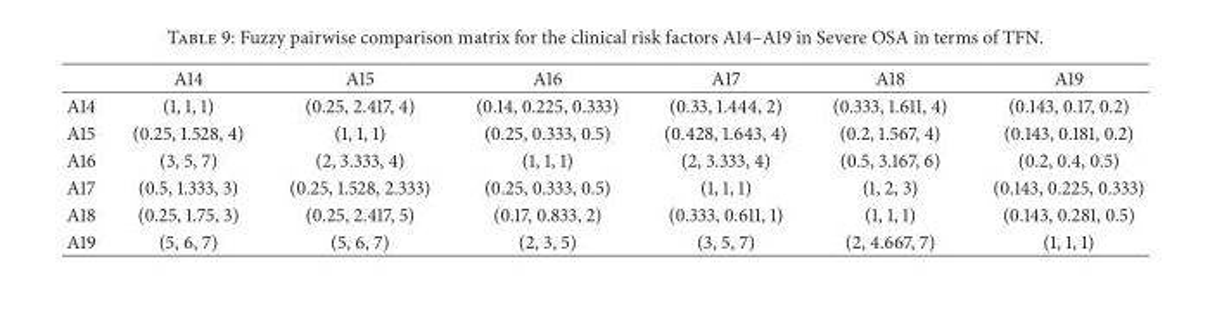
<table><thead><tr><td></td><td>A14</td><td>A15</td><td>A16</td><td>A17</td><td>A18</td><td>A19</td></tr></thead><tbody><tr><td>A14</td><td>(1, 1, 1)</td><td>(0.25, 2.417, 4)</td><td>(0.14, 0.225, 0.333)</td><td>(0.33, 1.444, 2)</td><td>(0.333, 1.611, 4)</td><td>(0.143, 0.17, 0.2)</td></tr><tr><td>A15</td><td>(0.25, 1.528, 4)</td><td>(1, 1, 1)</td><td>(0.25, 0.333, 0.5)</td><td>(0.428, 1.643, 4)</td><td>(0.2, 1.567, 4)</td><td>(0.143, 0.181, 0.2)</td></tr><tr><td>A16</td><td>(3, 5, 7)</td><td>(2, 3.333, 4)</td><td>(1, 1, 1)</td><td>(2, 3.333, 4)</td><td>(0.5, 3.167, 6)</td><td>(0.2, 0.4, 0.5)</td></tr><tr><td>A17</td><td>(0.5, 1.333, 3)</td><td>(0.25, 1.528, 2.333)</td><td>(0.25, 0.333, 0.5)</td><td>(1, 1, 1)</td><td>(1, 2, 3)</td><td>(0.143, 0.225, 0.333)</td></tr><tr><td>A18</td><td>(0.25, 1.75, 3)</td><td>(0.25, 2.417, 5)</td><td>(0.17, 0.833, 2)</td><td>(0.333, 0.611, 1)</td><td>(1, 1, 1)</td><td>(0.143, 0.281, 0.5)</td></tr><tr><td>A19</td><td>(5, 6, 7)</td><td>(5, 6, 7)</td><td>(2, 3, 5)</td><td>(3, 5, 7)</td><td>(2, 4.667, 7)</td><td>(1, 1, 1)</td></tr></tbody></table>